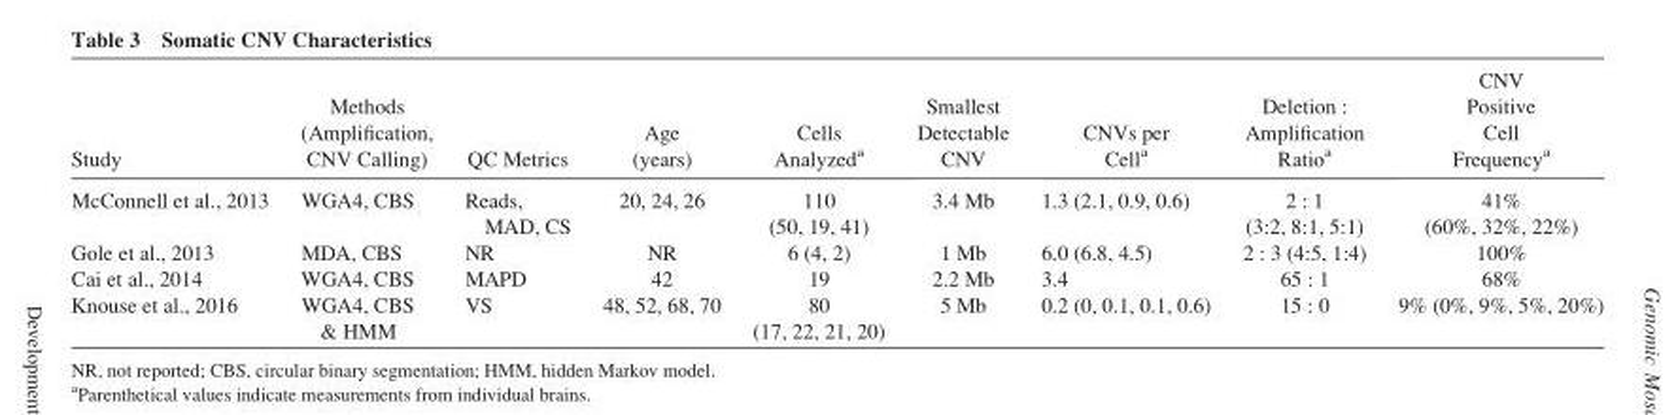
<table><thead><tr><td>Study</td><td>Methods (Amplification, CNV Calling)</td><td>QC Metrics</td><td>Age (years)</td><td>Cells Analyzed<sup>a</sup></td><td>Smallest Detectable CNV</td><td>CNVs per Cell<sup>a</sup></td><td>Deletion : Amplification Ratio<sup>a</sup></td><td>CNV Positive Cell Frequency<sup>a</sup></td></tr></thead><tbody><tr><td>McConnell et al., 2013</td><td>WGA4, CBS</td><td>Reads, MAD, CS</td><td>20, 24, 26</td><td>110 (50, 19, 41)</td><td>3.4 Mb</td><td>1.3 (2.1, 0.9, 0.6)</td><td>2 : 1 (3:2, 8:1, 5:1)</td><td>41% (60%, 32%, 22%)</td></tr><tr><td>Gole et al., 2013</td><td>MDA, CBS</td><td>NR</td><td>NR</td><td>6 (4, 2)</td><td>1 Mb</td><td>6.0 (6.8, 4.5)</td><td>2 : 3 (4:5, 1:4)</td><td>100%</td></tr><tr><td>Cai et al., 2014</td><td>WGA4, CBS</td><td>MAPD</td><td>42</td><td>19</td><td>2.2 Mb</td><td>3.4</td><td>65 : 1</td><td>68%</td></tr><tr><td>Knouse et al., 2016</td><td>WGA4, CBS &amp; HMM</td><td>VS</td><td>48, 52, 68, 70</td><td>80 (17, 22, 21, 20)</td><td>5 Mb</td><td>0.2 (0, 0.1, 0.1, 0.6)</td><td>15 : 0</td><td>9% (0%, 9%, 5%, 20%)</td></tr></tbody></table>